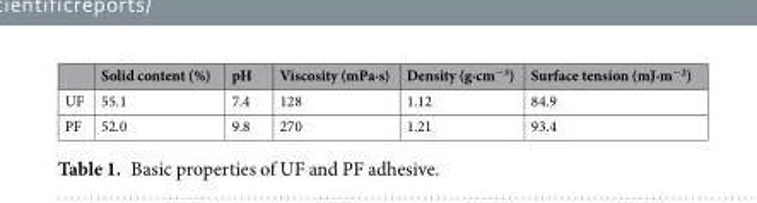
<table><thead><tr><td></td><td>Solid content (%)</td><td>pH</td><td>Viscosity (mPa·s)</td><td>Density (g·cm<sup>−3</sup>)</td><td>Surface tension (mJ·m<sup>−2</sup>)</td></tr></thead><tbody><tr><td>UF</td><td>55.1</td><td>7.4</td><td>128</td><td>1.12</td><td>84.9</td></tr><tr><td>PF</td><td>52.0</td><td>9.8</td><td>270</td><td>1.21</td><td>93.4</td></tr></tbody></table>